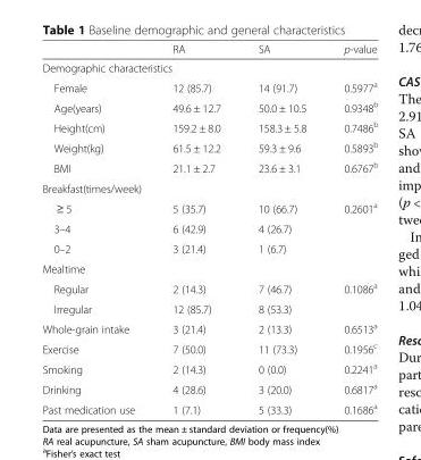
<table><thead><tr><td></td><td>RA</td><td>SA</td><td>p-value</td></tr></thead><tbody><tr><td colspan="4">Demographic characteristics</td></tr><tr><td>Female</td><td>12 (85.7)</td><td>14 (91.7)</td><td>0.5977<sup>a</sup></td></tr><tr><td>Age(years)</td><td>49.6 ± 12.7</td><td>50.0 ± 10.5</td><td>0.9348<sup>b</sup></td></tr><tr><td>Height(cm)</td><td>159.2 ± 8.0</td><td>158.3 ± 5.8</td><td>0.7486<sup>b</sup></td></tr><tr><td>Weight(kg)</td><td>61.5 ± 12.2</td><td>59.3 ± 9.6</td><td>0.5893<sup>b</sup></td></tr><tr><td>BMI</td><td>21.1 ± 2.7</td><td>23.6 ± 3.1</td><td>0.6767<sup>b</sup></td></tr><tr><td colspan="4">Breakfast(times/week)</td></tr><tr><td>≥ 5</td><td>5 (35.7)</td><td>10 (66.7)</td><td>0.2601<sup>a</sup></td></tr><tr><td>3–4</td><td>6 (42.9)</td><td>4 (26.7)</td><td></td></tr><tr><td>0–2</td><td>3 (21.4)</td><td>1 (6.7)</td><td></td></tr><tr><td colspan="4">Mealtime</td></tr><tr><td>Regular</td><td>2 (14.3)</td><td>7 (46.7)</td><td>0.1086<sup>a</sup></td></tr><tr><td>Irregular</td><td>12 (85.7)</td><td>8 (53.3)</td><td></td></tr><tr><td>Whole-grain intake</td><td>3 (21.4)</td><td>2 (13.3)</td><td>0.6513<sup>a</sup></td></tr><tr><td>Exercise</td><td>7 (50.0)</td><td>11 (73.3)</td><td>0.1956<sup>c</sup></td></tr><tr><td>Smoking</td><td>2 (14.3)</td><td>0 (0.0)</td><td>0.2241<sup>a</sup></td></tr><tr><td>Drinking</td><td>4 (28.6)</td><td>3 (20.0)</td><td>0.6817<sup>a</sup></td></tr><tr><td>Past medication use</td><td>1 (7.1)</td><td>5 (33.3)</td><td>0.1686<sup>a</sup></td></tr></tbody></table>